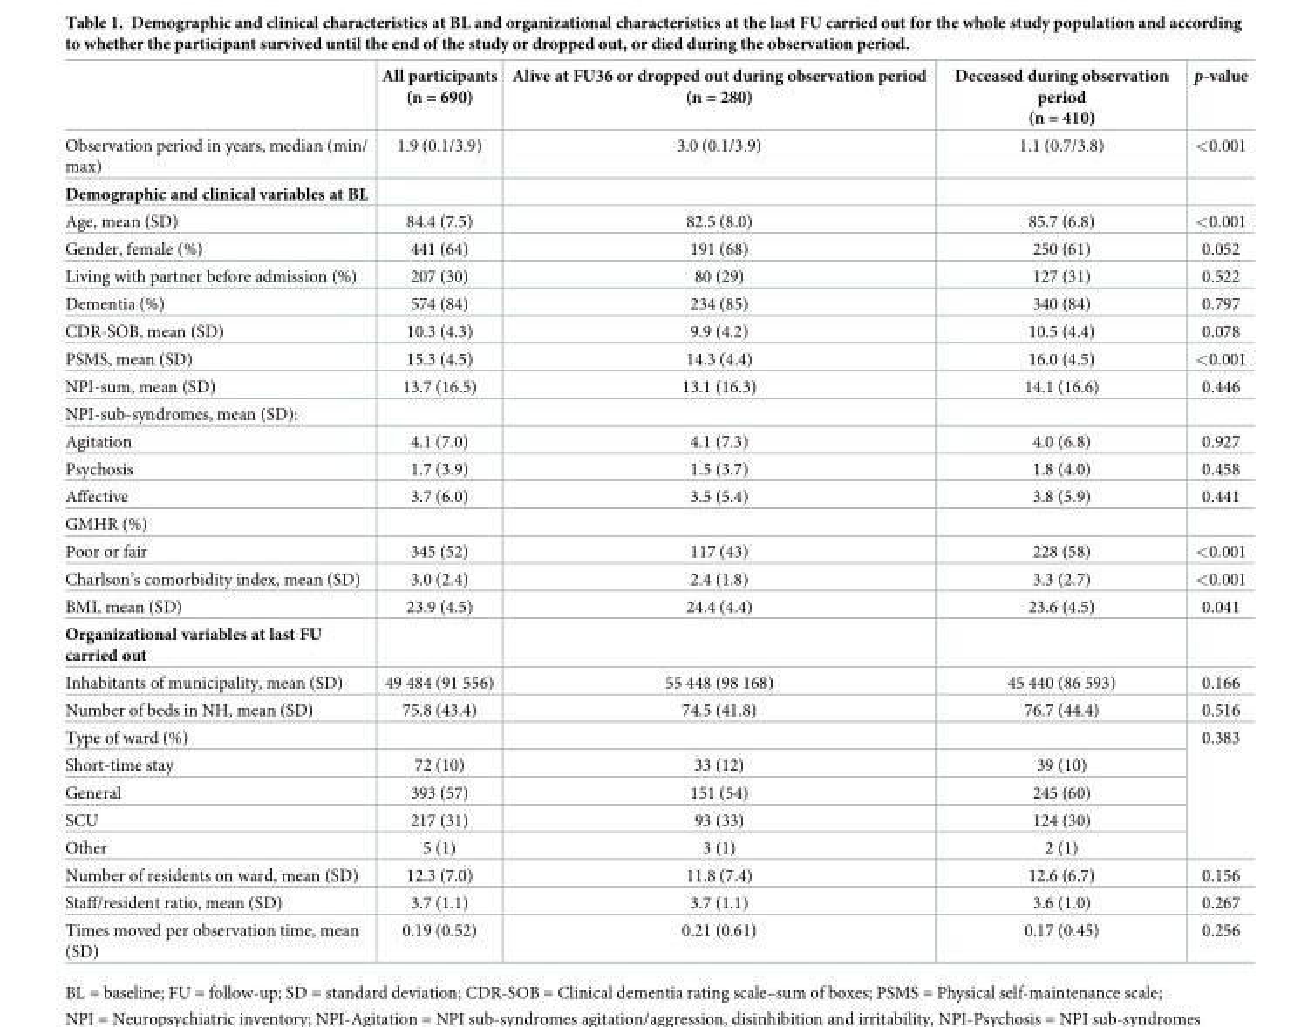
<table><thead><tr><td></td><td>All participants (n = 690)</td><td>Alive at FU36 or dropped out during observation period (n = 280)</td><td>Deceased during observation period (n = 410)</td><td>p-value</td></tr></thead><tbody><tr><td>Observation period in years, median (min/ max)</td><td>1.9 (0.1/3.9)</td><td>3.0 (0.1/3.9)</td><td>1.1 (0.7/3.8)</td><td>&lt;0.001</td></tr><tr><td colspan="5">Demographic and clinical variables at BL</td></tr><tr><td>Age, mean (SD)</td><td>84.4 (7.5)</td><td>82.5 (8.0)</td><td>85.7 (6.8)</td><td>&lt;0.001</td></tr><tr><td>Gender, female (%)</td><td>441 (64)</td><td>191 (68)</td><td>250 (61)</td><td>0.052</td></tr><tr><td>Living with partner before admission (%)</td><td>207 (30)</td><td>80 (29)</td><td>127 (31)</td><td>0.522</td></tr><tr><td>Dementia (%)</td><td>574 (84)</td><td>234 (85)</td><td>340 (84)</td><td>0.797</td></tr><tr><td>CDR-SOB, mean (SD)</td><td>10.3 (4.3)</td><td>9.9 (4.2)</td><td>10.5 (4.4)</td><td>0.078</td></tr><tr><td>PSMS, mean (SD)</td><td>15.3 (4.5)</td><td>14.3 (4.4)</td><td>16.0 (4.5)</td><td>&lt;0.001</td></tr><tr><td>NPI-sum, mean (SD)</td><td>13.7 (16.5)</td><td>13.1 (16.3)</td><td>14.1 (16.6)</td><td>0.446</td></tr><tr><td colspan="5">NPI-sub-syndromes, mean (SD):</td></tr><tr><td>Agitation</td><td>4.1 (7.0)</td><td>4.1 (7.3)</td><td>4.0 (6.8)</td><td>0.927</td></tr><tr><td>Psychosis</td><td>1.7 (3.9)</td><td>1.5 (3.7)</td><td>1.8 (4.0)</td><td>0.458</td></tr><tr><td>Affective</td><td>3.7 (6.0)</td><td>3.5 (5.4)</td><td>3.8 (5.9)</td><td>0.441</td></tr><tr><td colspan="5">GMHR (%)</td></tr><tr><td>Poor or fair</td><td>345 (52)</td><td>117 (43)</td><td>228 (58)</td><td>&lt;0.001</td></tr><tr><td>Charlson’s comorbidity index, mean (SD)</td><td>3.0 (2.4)</td><td>2.4 (1.8)</td><td>3.3 (2.7)</td><td>&lt;0.001</td></tr><tr><td>BMI, mean (SD)</td><td>23.9 (4.5)</td><td>24.4 (4.4)</td><td>23.6 (4.5)</td><td>0.041</td></tr><tr><td colspan="5">Organizational variables at last FU carried out</td></tr><tr><td>Inhabitants of municipality, mean (SD)</td><td>49 484 (91 556)</td><td>55 448 (98 168)</td><td>45 440 (86 593)</td><td>0.166</td></tr><tr><td>Number of beds in NH, mean (SD)</td><td>75.8 (43.4)</td><td>74.5 (41.8)</td><td>76.7 (44.4)</td><td>0.516</td></tr><tr><td colspan="4">Type of ward (%)</td><td rowspan="5">0.383</td></tr><tr><td>Short-time stay</td><td>72 (10)</td><td>33 (12)</td><td>39 (10)</td></tr><tr><td>General</td><td>393 (57)</td><td>151 (54)</td><td>245 (60)</td></tr><tr><td>SCU</td><td>217 (31)</td><td>93 (33)</td><td>124 (30)</td></tr><tr><td>Other</td><td>5 (1)</td><td>3 (1)</td><td>2 (1)</td></tr><tr><td>Number of residents on ward, mean (SD)</td><td>12.3 (7.0)</td><td>11.8 (7.4)</td><td>12.6 (6.7)</td><td>0.156</td></tr><tr><td>Staff/resident ratio, mean (SD)</td><td>3.7 (1.1)</td><td>3.7 (1.1)</td><td>3.6 (1.0)</td><td>0.267</td></tr><tr><td>Times moved per observation time, mean (SD)</td><td>0.19 (0.52)</td><td>0.21 (0.61)</td><td>0.17 (0.45)</td><td>0.256</td></tr></tbody></table>